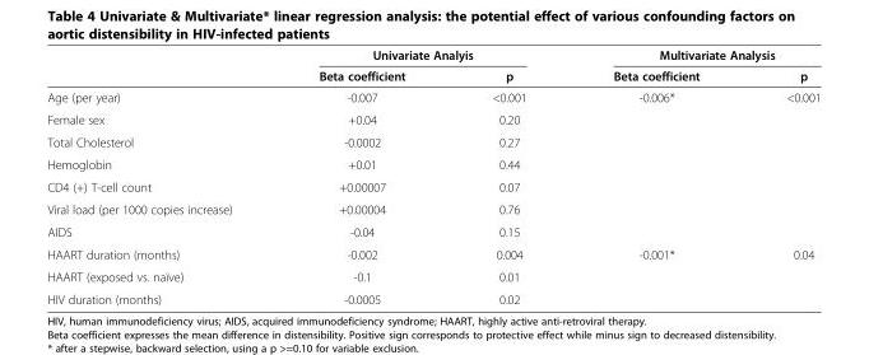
<table><thead><tr><td rowspan="2"></td><td colspan="2">Univariate Analyis</td><td colspan="2">Multivariate Analysis</td></tr><tr><td>Beta coefficient</td><td>p</td><td>Beta coefficient</td><td>p</td></tr></thead><tbody><tr><td>Age (per year)</td><td>-0.007</td><td>&lt;0.001</td><td>-0.006*</td><td>&lt;0.001</td></tr><tr><td>Female sex</td><td>+0.04</td><td>0.20</td><td></td><td></td></tr><tr><td>Total Cholesterol</td><td>-0.0002</td><td>0.27</td><td></td><td></td></tr><tr><td>Hemoglobin</td><td>+0.01</td><td>0.44</td><td></td><td></td></tr><tr><td>CD4 (+) T-cell count</td><td>+0.00007</td><td>0.07</td><td></td><td></td></tr><tr><td>Viral load (per 1000 copies increase)</td><td>+0.00004</td><td>0.76</td><td></td><td></td></tr><tr><td>AIDS</td><td>-0.04</td><td>0.15</td><td></td><td></td></tr><tr><td>HAART duration (months)</td><td>-0.002</td><td>0.004</td><td>-0.001*</td><td>0.04</td></tr><tr><td>HAART (exposed vs. naïve)</td><td>-0.1</td><td>0.01</td><td></td><td></td></tr><tr><td>HIV duration (months)</td><td>-0.0005</td><td>0.02</td><td></td><td></td></tr></tbody></table>